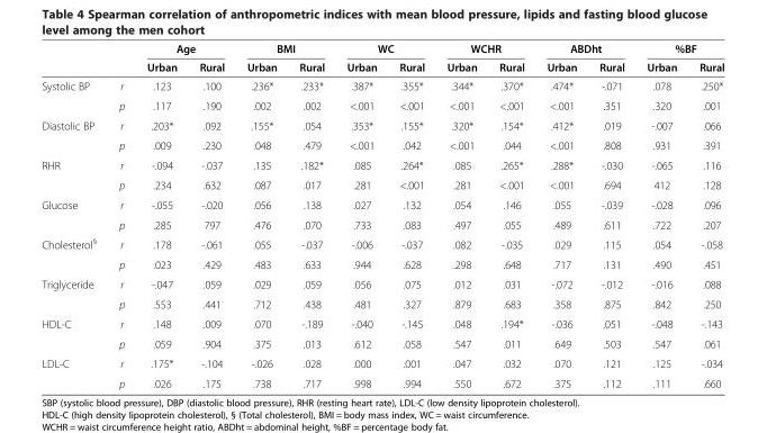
<table><thead><tr><td rowspan="2"></td><td rowspan="2"></td><td colspan="2">Age</td><td colspan="2">BMI</td><td colspan="2">WC</td><td colspan="2">WCHR</td><td colspan="2">ABDht</td><td colspan="2">%BF</td></tr><tr><td>Urban</td><td>Rural</td><td>Urban</td><td>Rural</td><td>Urban</td><td>Rural</td><td>Urban</td><td>Rural</td><td>Urban</td><td>Rural</td><td>Urban</td><td>Rural</td></tr></thead><tbody><tr><td rowspan="2">Systolic BP</td><td>r</td><td>.123</td><td>.100</td><td>.236*</td><td>.233*</td><td>.387*</td><td>.355*</td><td>.344*</td><td>.370*</td><td>.474*</td><td>-.071</td><td>.078</td><td>.250*</td></tr><tr><td>p</td><td>.117</td><td>.190</td><td>.002</td><td>.002</td><td>&lt;.001</td><td>&lt;.001</td><td>&lt;.001</td><td>&lt;.001</td><td>&lt;.001</td><td>.351</td><td>.320</td><td>.001</td></tr><tr><td rowspan="2">Diastolic BP</td><td>r</td><td>.203*</td><td>.092</td><td>.155*</td><td>.054</td><td>.353*</td><td>.155*</td><td>.320*</td><td>.154*</td><td>.412*</td><td>.019</td><td>-.007</td><td>.066</td></tr><tr><td>p</td><td>.009</td><td>.230</td><td>.048</td><td>.479</td><td>&lt;.001</td><td>.042</td><td>&lt;.001</td><td>.044</td><td>&lt;.001</td><td>.808</td><td>.931</td><td>.391</td></tr><tr><td rowspan="2">RHR</td><td>r</td><td>-.094</td><td>-.037</td><td>.135</td><td>.182*</td><td>.085</td><td>.264*</td><td>.085</td><td>.265*</td><td>.288*</td><td>-.030</td><td>-.065</td><td>.116</td></tr><tr><td>p</td><td>.234</td><td>.632</td><td>.087</td><td>.017</td><td>.281</td><td>&lt;.001</td><td>.281</td><td>&lt;.001</td><td>&lt;.001</td><td>.694</td><td>412</td><td>.128</td></tr><tr><td rowspan="2">Glucose</td><td>r</td><td>-.055</td><td>-.020</td><td>.056</td><td>.138</td><td>.027</td><td>.132</td><td>.054</td><td>.146</td><td>.055</td><td>-.039</td><td>-.028</td><td>.096</td></tr><tr><td>p</td><td>.285</td><td>797</td><td>.476</td><td>.070</td><td>.733</td><td>.083</td><td>.497</td><td>.055</td><td>.489</td><td>.611</td><td>.722</td><td>.207</td></tr><tr><td rowspan="2">Cholesterol<sup>§</sup></td><td>r</td><td>.178</td><td>-.061</td><td>.055</td><td>-.037</td><td>-.006</td><td>-.037</td><td>.082</td><td>-.035</td><td>.029</td><td>.115</td><td>.054</td><td>-.058</td></tr><tr><td>p</td><td>.023</td><td>.429</td><td>.483</td><td>.633</td><td>.944</td><td>.628</td><td>.298</td><td>.648</td><td>.717</td><td>.131</td><td>.490</td><td>.451</td></tr><tr><td rowspan="2">Triglyceride</td><td>r</td><td>-.047</td><td>.059</td><td>.029</td><td>.059</td><td>.056</td><td>.075</td><td>.012</td><td>.031</td><td>-.072</td><td>-.012</td><td>-.016</td><td>.088</td></tr><tr><td>p</td><td>.553</td><td>.441</td><td>.712</td><td>.438</td><td>.481</td><td>.327</td><td>.879</td><td>.683</td><td>.358</td><td>.875</td><td>.842</td><td>.250</td></tr><tr><td rowspan="2">HDL-C</td><td>r</td><td>.148</td><td>.009</td><td>.070</td><td>-.189</td><td>-.040</td><td>-.145</td><td>.048</td><td>.194*</td><td>-.036</td><td>.051</td><td>-.048</td><td>-.143</td></tr><tr><td>p</td><td>.059</td><td>.904</td><td>.375</td><td>.013</td><td>.612</td><td>.058</td><td>.547</td><td>.011</td><td>.649</td><td>.503</td><td>.547</td><td>.061</td></tr><tr><td rowspan="2">LDL-C</td><td>r</td><td>.175*</td><td>-.104</td><td>-.026</td><td>.028</td><td>.000</td><td>.001</td><td>.047</td><td>.032</td><td>.070</td><td>.121</td><td>.125</td><td>-.034</td></tr><tr><td>p</td><td>.026</td><td>.175</td><td>.738</td><td>.717</td><td>.998</td><td>.994</td><td>.550</td><td>.672</td><td>.375</td><td>.112</td><td>.111</td><td>.660</td></tr></tbody></table>